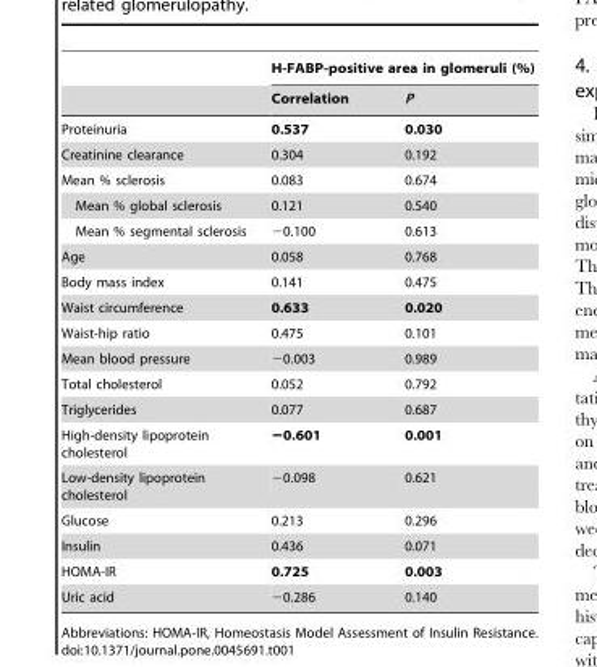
<table><thead><tr><td rowspan="2"></td><td colspan="2">H-FABP-positive area in glomeruli (%)</td></tr><tr><td>Correlation</td><td>P</td></tr></thead><tbody><tr><td>Proteinuria</td><td>0.537</td><td>0.030</td></tr><tr><td>Creatinine clearance</td><td>0.304</td><td>0.192</td></tr><tr><td>Mean % sclerosis</td><td>0.083</td><td>0.674</td></tr><tr><td>Mean % global sclerosis</td><td>0.121</td><td>0.540</td></tr><tr><td>Mean % segmental sclerosis</td><td>−0.100</td><td>0.613</td></tr><tr><td>Age</td><td>0.058</td><td>0.768</td></tr><tr><td>Body mass index</td><td>0.141</td><td>0.475</td></tr><tr><td>Waist circumference</td><td>0.633</td><td>0.020</td></tr><tr><td>Waist-hip ratio</td><td>0.475</td><td>0.101</td></tr><tr><td>Mean blood pressure</td><td>−0.003</td><td>0.989</td></tr><tr><td>Total cholesterol</td><td>0.052</td><td>0.792</td></tr><tr><td>Triglycerides</td><td>0.077</td><td>0.687</td></tr><tr><td>High-density lipoprotein cholesterol</td><td>−0.601</td><td>0.001</td></tr><tr><td>Low-density lipoprotein cholesterol</td><td>−0.098</td><td>0.621</td></tr><tr><td>Glucose</td><td>0.213</td><td>0.296</td></tr><tr><td>Insulin</td><td>0.436</td><td>0.071</td></tr><tr><td>HOMA-IR</td><td>0.725</td><td>0.003</td></tr><tr><td>Uric acid</td><td>−0.286</td><td>0.140</td></tr></tbody></table>